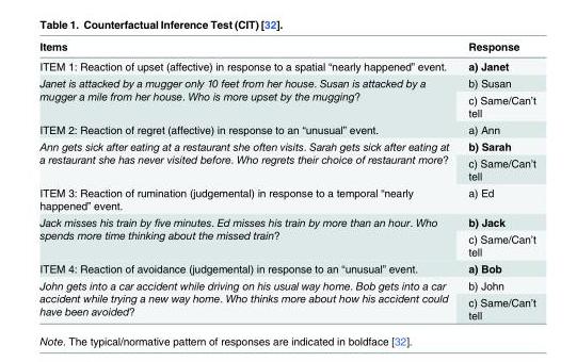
<table><thead><tr><td>Items</td><td>Response</td></tr></thead><tbody><tr><td>ITEM 1: Reaction of upset (affective) in response to a spatial “nearly happened” event.</td><td>a) Janet</td></tr><tr><td rowspan="2">Janet is attacked by a mugger only 10 feet from her house. Susan is attacked by a mugger a mile from her house. Who is more upset by the mugging?</td><td>b) Susan</td></tr><tr><td>c) Same/Can’t tell</td></tr><tr><td>ITEM 2: Reaction of regret (affective) in response to an “unusual” event.</td><td>a) Ann</td></tr><tr><td rowspan="2">Ann gets sick after eating at a restaurant she often visits. Sarah gets sick after eating at a restaurant she has never visited before. Who regrets their choice of restaurant more?</td><td>b) Sarah</td></tr><tr><td>c) Same/Can’t tell</td></tr><tr><td>ITEM 3: Reaction of rumination (judgemental) in response to a temporal “nearly happened” event.</td><td>a) Ed</td></tr><tr><td rowspan="2">Jack misses his train by five minutes. Ed misses his train by more than an hour. Who spends more time thinking about the missed train?</td><td>b) Jack</td></tr><tr><td>c) Same/Can’t tell</td></tr><tr><td>ITEM 4: Reaction of avoidance (judgemental) in response to an “unusual” event.</td><td>a) Bob</td></tr><tr><td rowspan="2">John gets into a car accident while driving on his usual way home. Bob gets into a car accident while trying a new way home. Who thinks more about how his accident could have been avoided?</td><td>b) John</td></tr><tr><td>c) Same/Can’t tell</td></tr></tbody></table>